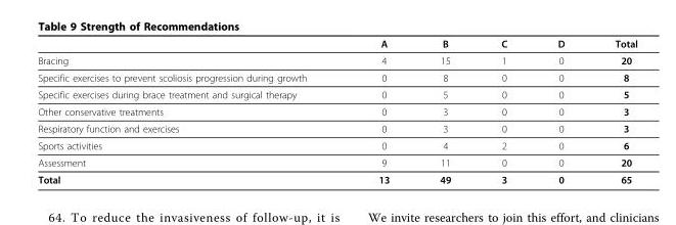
<table><thead><tr><td></td><td>A</td><td>B</td><td>C</td><td>D</td><td>Total</td></tr></thead><tbody><tr><td>Bracing</td><td>4</td><td>15</td><td>1</td><td>0</td><td>20</td></tr><tr><td>Specific exercises to prevent scoliosis progression during growth</td><td>0</td><td>8</td><td>0</td><td>0</td><td>8</td></tr><tr><td>Specific exercises during brace treatment and surgical therapy</td><td>0</td><td>5</td><td>0</td><td>0</td><td>5</td></tr><tr><td>Other conservative treatments</td><td>0</td><td>3</td><td>0</td><td>0</td><td>3</td></tr><tr><td>Respiratory function and exercises</td><td>0</td><td>3</td><td>0</td><td>0</td><td>3</td></tr><tr><td>Sports activities</td><td>0</td><td>4</td><td>2</td><td>0</td><td>6</td></tr><tr><td>Assessment</td><td>9</td><td>11</td><td>0</td><td>0</td><td>20</td></tr><tr><td>Total</td><td>13</td><td>49</td><td>3</td><td>0</td><td>65</td></tr></tbody></table>